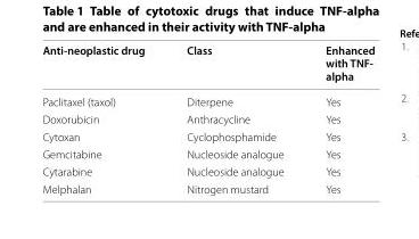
<table><thead><tr><td>Anti-neoplastic drug</td><td>Class</td><td>Enhanced with TNF- alpha</td></tr></thead><tbody><tr><td>Paclitaxel (taxol)</td><td>Diterpene</td><td>Yes</td></tr><tr><td>Doxorubicin</td><td>Anthracycline</td><td>Yes</td></tr><tr><td>Cytoxan</td><td>Cyclophosphamide</td><td>Yes</td></tr><tr><td>Gemcitabine</td><td>Nucleoside analogue</td><td>Yes</td></tr><tr><td>Cytarabine</td><td>Nucleoside analogue</td><td>Yes</td></tr><tr><td>Melphalan</td><td>Nitrogen mustard</td><td>Yes</td></tr></tbody></table>